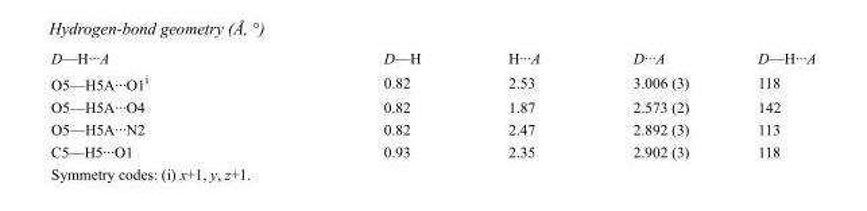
<table><tbody><tr><td>D—H···A</td><td>D—H</td><td>H···A</td><td>D···A</td><td>D—H···A</td></tr><tr><td>O5—H5A···O1<sup>i</sup></td><td>0.82</td><td>2.53</td><td>3.006 (3)</td><td>118</td></tr><tr><td>O5—H5A···O4</td><td>0.82</td><td>1.87</td><td>2.573 (2)</td><td>142</td></tr><tr><td>O5—H5A···N2</td><td>0.82</td><td>2.47</td><td>2.892 (3)</td><td>113</td></tr><tr><td>C5—H5···O1</td><td>0.93</td><td>2.35</td><td>2.902 (3)</td><td>118</td></tr></tbody></table>